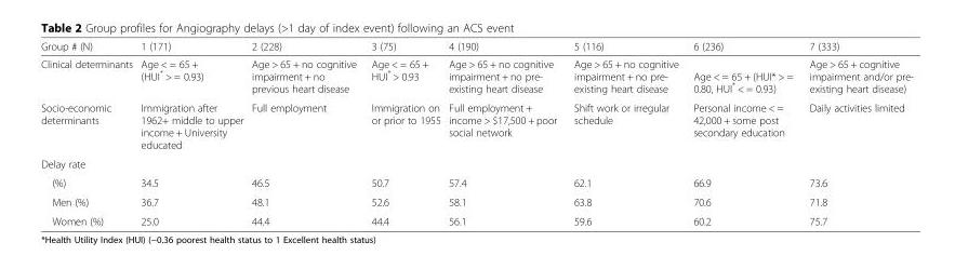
<table><thead><tr><td>Group # (N)</td><td>1 (171)</td><td>2 (228)</td><td>3 (75)</td><td>4 (190)</td><td>5 (116)</td><td>6 (236)</td><td>7 (333)</td></tr></thead><tbody><tr><td>Clinical determinants</td><td>Age &lt; = 65 + (HUI* &gt; = 0.93)</td><td>Age &gt; 65 + no cognitive impairment + no previous heart disease</td><td>Age &lt; = 65 + HUI* &gt; 0.93</td><td>Age &gt; 65 + no cognitive impairment + no pre- existing heart disease</td><td>Age &gt; 65 + no cognitive impairment + no pre- existing heart disease</td><td>Age &lt; = 65 + (HUI* &gt; = 0.80, HUI* &lt; = 0.93)</td><td>Age &gt; 65 + cognitive impairment and/or pre- existing heart disease)</td></tr><tr><td>Socio-economic determinants</td><td>Immigration after 1962+ middle to upper income + University educated</td><td>Full employment</td><td>Immigration on or prior to 1955</td><td>Full employment + income &gt; $17,500 + poor social network</td><td>Shift work or irregular schedule</td><td>Personal income &lt; = 42,000 + some post secondary education</td><td>Daily activities limited</td></tr><tr><td colspan="8">Delay rate</td></tr><tr><td>(%)</td><td>34.5</td><td>46.5</td><td>50.7</td><td>57.4</td><td>62.1</td><td>66.9</td><td>73.6</td></tr><tr><td>Men (%)</td><td>36.7</td><td>48.1</td><td>52.6</td><td>58.1</td><td>63.8</td><td>70.6</td><td>71.8</td></tr><tr><td>Women (%)</td><td>25.0</td><td>44.4</td><td>44.4</td><td>56.1</td><td>59.6</td><td>60.2</td><td>75.7</td></tr></tbody></table>